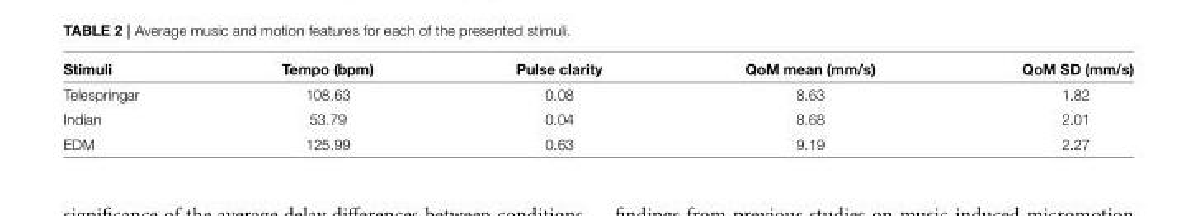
<table><thead><tr><td>Stimuli</td><td>Tempo (bpm)</td><td>Pulse clarity</td><td>QoM mean (mm/s)</td><td>QoM SD (mm/s)</td></tr></thead><tbody><tr><td>Telespringar</td><td>108.63</td><td>0.08</td><td>8.63</td><td>1.82</td></tr><tr><td>Indian</td><td>53.79</td><td>0.04</td><td>8.68</td><td>2.01</td></tr><tr><td>EDM</td><td>125.99</td><td>0.63</td><td>9.19</td><td>2.27</td></tr></tbody></table>